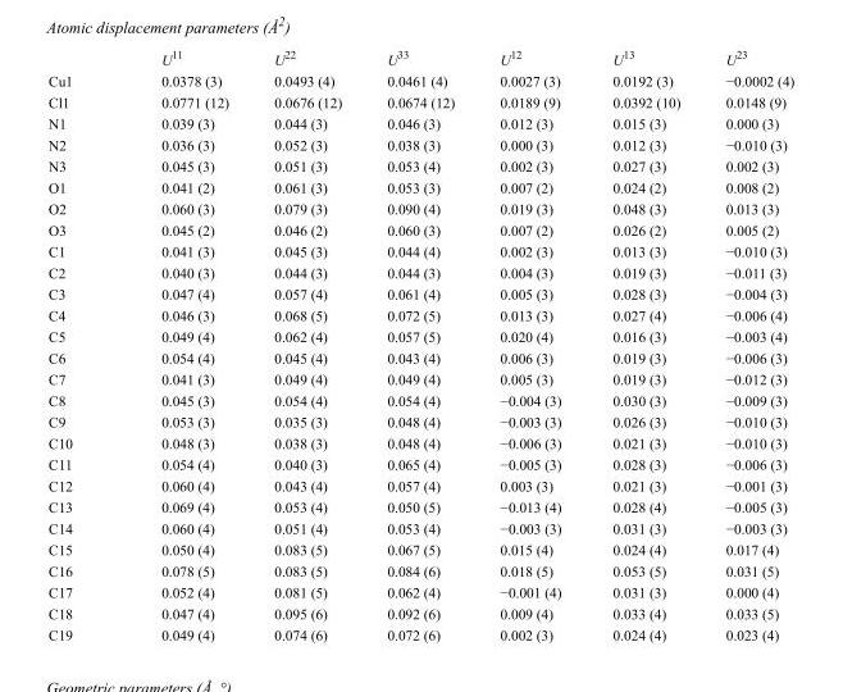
<table><thead><tr><td></td><td>U<sup>11</sup></td><td>U<sup>22</sup></td><td>U<sup>33</sup></td><td>U<sup>12</sup></td><td>U<sup>13</sup></td><td>U<sup>23</sup></td></tr></thead><tbody><tr><td>Cu1</td><td>0.0378 (3)</td><td>0.0493 (4)</td><td>0.0461 (4)</td><td>0.0027 (3)</td><td>0.0192 (3)</td><td>−0.0002 (4)</td></tr><tr><td>Cl1</td><td>0.0771 (12)</td><td>0.0676 (12)</td><td>0.0674 (12)</td><td>0.0189 (9)</td><td>0.0392 (10)</td><td>0.0148 (9)</td></tr><tr><td>N1</td><td>0.039 (3)</td><td>0.044 (3)</td><td>0.046 (3)</td><td>0.012 (3)</td><td>0.015 (3)</td><td>0.000 (3)</td></tr><tr><td>N2</td><td>0.036 (3)</td><td>0.052 (3)</td><td>0.038 (3)</td><td>0.000 (3)</td><td>0.012 (3)</td><td>−0.010 (3)</td></tr><tr><td>N3</td><td>0.045 (3)</td><td>0.051 (3)</td><td>0.053 (4)</td><td>0.002 (3)</td><td>0.027 (3)</td><td>0.002 (3)</td></tr><tr><td>O1</td><td>0.041 (2)</td><td>0.061 (3)</td><td>0.053 (3)</td><td>0.007 (2)</td><td>0.024 (2)</td><td>0.008 (2)</td></tr><tr><td>O2</td><td>0.060 (3)</td><td>0.079 (3)</td><td>0.090 (4)</td><td>0.019 (3)</td><td>0.048 (3)</td><td>0.013 (3)</td></tr><tr><td>O3</td><td>0.045 (2)</td><td>0.046 (2)</td><td>0.060 (3)</td><td>0.007 (2)</td><td>0.026 (2)</td><td>0.005 (2)</td></tr><tr><td>C1</td><td>0.041 (3)</td><td>0.045 (3)</td><td>0.044 (4)</td><td>0.002 (3)</td><td>0.013 (3)</td><td>−0.010 (3)</td></tr><tr><td>C2</td><td>0.040 (3)</td><td>0.044 (3)</td><td>0.044 (3)</td><td>0.004 (3)</td><td>0.019 (3)</td><td>−0.011 (3)</td></tr><tr><td>C3</td><td>0.047 (4)</td><td>0.057 (4)</td><td>0.061 (4)</td><td>0.005 (3)</td><td>0.028 (3)</td><td>−0.004 (3)</td></tr><tr><td>C4</td><td>0.046 (3)</td><td>0.068 (5)</td><td>0.072 (5)</td><td>0.013 (3)</td><td>0.027 (4)</td><td>−0.006 (4)</td></tr><tr><td>C5</td><td>0.049 (4)</td><td>0.062 (4)</td><td>0.057 (5)</td><td>0.020 (4)</td><td>0.016 (3)</td><td>−0.003 (4)</td></tr><tr><td>C6</td><td>0.054 (4)</td><td>0.045 (4)</td><td>0.043 (4)</td><td>0.006 (3)</td><td>0.019 (3)</td><td>−0.006 (3)</td></tr><tr><td>C7</td><td>0.041 (3)</td><td>0.049 (4)</td><td>0.049 (4)</td><td>0.005 (3)</td><td>0.019 (3)</td><td>−0.012 (3)</td></tr><tr><td>C8</td><td>0.045 (3)</td><td>0.054 (4)</td><td>0.054 (4)</td><td>−0.004 (3)</td><td>0.030 (3)</td><td>−0.009 (3)</td></tr><tr><td>C9</td><td>0.053 (3)</td><td>0.035 (3)</td><td>0.048 (4)</td><td>−0.003 (3)</td><td>0.026 (3)</td><td>−0.010 (3)</td></tr><tr><td>C10</td><td>0.048 (3)</td><td>0.038 (3)</td><td>0.048 (4)</td><td>−0.006 (3)</td><td>0.021 (3)</td><td>−0.010 (3)</td></tr><tr><td>C11</td><td>0.054 (4)</td><td>0.040 (3)</td><td>0.065 (4)</td><td>−0.005 (3)</td><td>0.028 (3)</td><td>−0.006 (3)</td></tr><tr><td>C12</td><td>0.060 (4)</td><td>0.043 (4)</td><td>0.057 (4)</td><td>0.003 (3)</td><td>0.021 (3)</td><td>−0.001 (3)</td></tr><tr><td>C13</td><td>0.069 (4)</td><td>0.053 (4)</td><td>0.050 (5)</td><td>−0.013 (4)</td><td>0.028 (4)</td><td>−0.005 (3)</td></tr><tr><td>C14</td><td>0.060 (4)</td><td>0.051 (4)</td><td>0.053 (4)</td><td>−0.003 (3)</td><td>0.031 (3)</td><td>−0.003 (3)</td></tr><tr><td>C15</td><td>0.050 (4)</td><td>0.083 (5)</td><td>0.067 (5)</td><td>0.015 (4)</td><td>0.024 (4)</td><td>0.017 (4)</td></tr><tr><td>C16</td><td>0.078 (5)</td><td>0.083 (5)</td><td>0.084 (6)</td><td>0.018 (5)</td><td>0.053 (5)</td><td>0.031 (5)</td></tr><tr><td>C17</td><td>0.052 (4)</td><td>0.081 (5)</td><td>0.062 (4)</td><td>−0.001 (4)</td><td>0.031 (3)</td><td>0.000 (4)</td></tr><tr><td>C18</td><td>0.047 (4)</td><td>0.095 (6)</td><td>0.092 (6)</td><td>0.009 (4)</td><td>0.033 (4)</td><td>0.033 (5)</td></tr><tr><td>C19</td><td>0.049 (4)</td><td>0.074 (6)</td><td>0.072 (6)</td><td>0.002 (3)</td><td>0.024 (4)</td><td>0.023 (4)</td></tr></tbody></table>